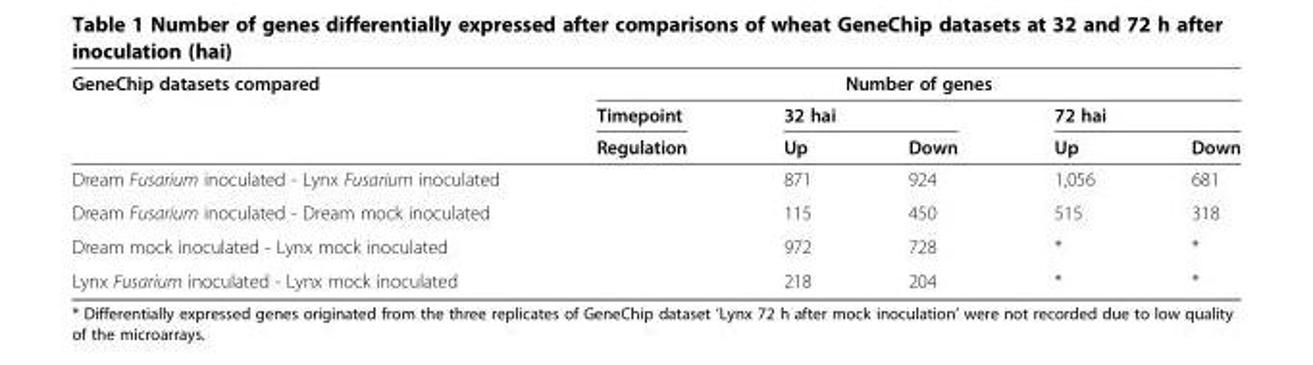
<table><thead><tr><td rowspan="3">GeneChip datasets compared</td><td rowspan="3">Timepoint Regulation</td><td colspan="4">Number of genes</td></tr><tr><td colspan="2">32 hai</td><td colspan="2">72 hai</td></tr><tr><td>Up</td><td>Down</td><td>Up</td><td>Down</td></tr></thead><tbody><tr><td>Dream Fusarium inoculated - Lynx Fusarium inoculated</td><td></td><td>871</td><td>924</td><td>1,056</td><td>681</td></tr><tr><td>Dream Fusarium inoculated - Dream mock inoculated</td><td></td><td>115</td><td>450</td><td>515</td><td>318</td></tr><tr><td>Dream mock inoculated - Lynx mock inoculated</td><td></td><td>972</td><td>728</td><td>*</td><td>*</td></tr><tr><td>Lynx Fusarium inoculated - Lynx mock inoculated</td><td></td><td>218</td><td>204</td><td>*</td><td>*</td></tr></tbody></table>